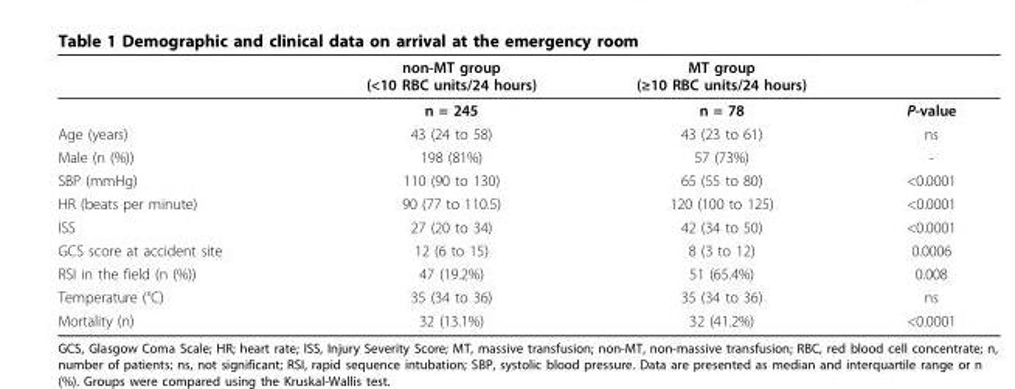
<table><thead><tr><td></td><td>non-MT group (&lt;10 RBC units/24 hours)</td><td>MT group (≥10 RBC units/24 hours)</td><td></td></tr></thead><tbody><tr><td></td><td>n = 245</td><td>n = 78</td><td>P-value</td></tr><tr><td>Age (years)</td><td>43 (24 to 58)</td><td>43 (23 to 61)</td><td>ns</td></tr><tr><td>Male (n (%))</td><td>198 (81%)</td><td>57 (73%)</td><td>-</td></tr><tr><td>SBP (mmHg)</td><td>110 (90 to 130)</td><td>65 (55 to 80)</td><td>&lt;0.0001</td></tr><tr><td>HR (beats per minute)</td><td>90 (77 to 110.5)</td><td>120 (100 to 125)</td><td>&lt;0.0001</td></tr><tr><td>ISS</td><td>27 (20 to 34)</td><td>42 (34 to 50)</td><td>&lt;0.0001</td></tr><tr><td>GCS score at accident site</td><td>12 (6 to 15)</td><td>8 (3 to 12)</td><td>0.0006</td></tr><tr><td>RSI in the field (n (%))</td><td>47 (19.2%)</td><td>51 (65.4%)</td><td>0.008</td></tr><tr><td>Temperature (°C)</td><td>35 (34 to 36)</td><td>35 (34 to 36)</td><td>ns</td></tr><tr><td>Mortality (n)</td><td>32 (13.1%)</td><td>32 (41.2%)</td><td>&lt;0.0001</td></tr></tbody></table>